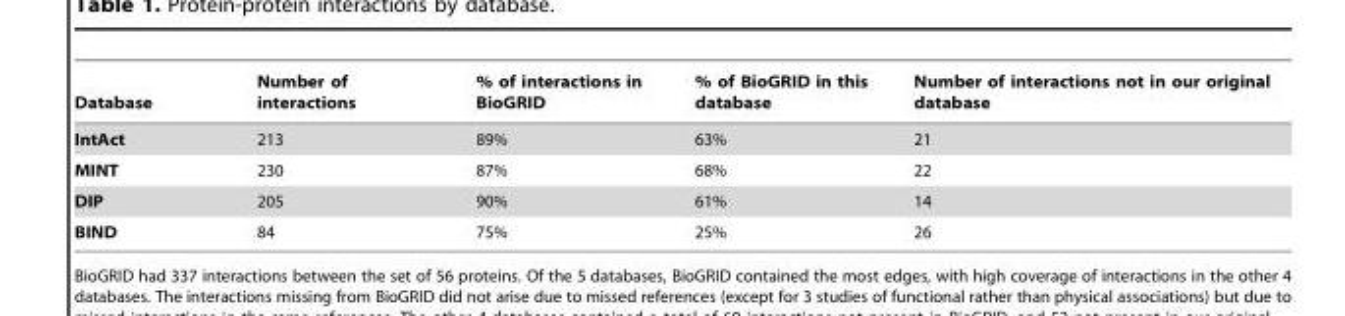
<table><thead><tr><td>Database</td><td>Number of interactions</td><td>% of interactions in BioGRID</td><td>% of BioGRID in this database</td><td>Number of interactions not in our original database</td></tr></thead><tbody><tr><td>IntAct</td><td>213</td><td>89%</td><td>63%</td><td>21</td></tr><tr><td>MINT</td><td>230</td><td>87%</td><td>68%</td><td>22</td></tr><tr><td>DIP</td><td>205</td><td>90%</td><td>61%</td><td>14</td></tr><tr><td>BIND</td><td>84</td><td>75%</td><td>25%</td><td>26</td></tr></tbody></table>